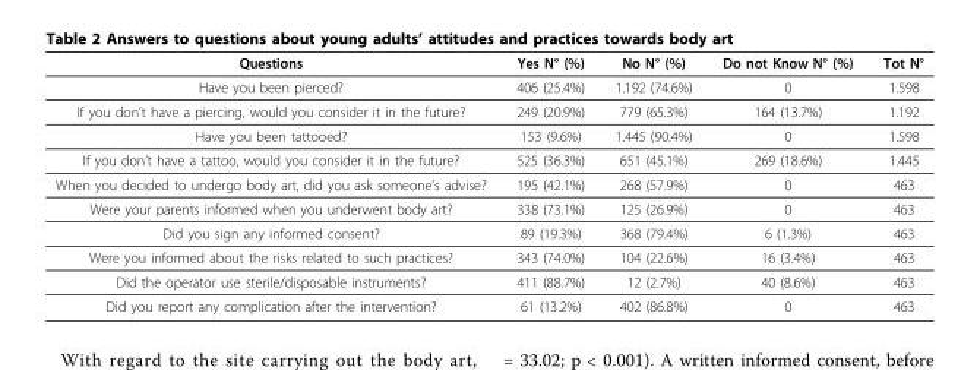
<table><thead><tr><td>Questions</td><td>Yes N° (%)</td><td>No N° (%)</td><td>Do not Know N° (%)</td><td>Tot N°</td></tr></thead><tbody><tr><td>Have you been pierced?</td><td>406 (25.4%)</td><td>1.192 (74.6%)</td><td>0</td><td>1.598</td></tr><tr><td>If you don’t have a piercing, would you consider it in the future?</td><td>249 (20.9%)</td><td>779 (65.3%)</td><td>164 (13.7%)</td><td>1.192</td></tr><tr><td>Have you been tattooed?</td><td>153 (9.6%)</td><td>1.445 (90.4%)</td><td>0</td><td>1.598</td></tr><tr><td>If you don’t have a tattoo, would you consider it in the future?</td><td>525 (36.3%)</td><td>651 (45.1%)</td><td>269 (18.6%)</td><td>1.445</td></tr><tr><td>When you decided to undergo body art, did you ask someone’s advise?</td><td>195 (42.1%)</td><td>268 (57.9%)</td><td>0</td><td>463</td></tr><tr><td>Were your parents informed when you underwent body art?</td><td>338 (73.1%)</td><td>125 (26.9%)</td><td>0</td><td>463</td></tr><tr><td>Did you sign any informed consent?</td><td>89 (19.3%)</td><td>368 (79.4%)</td><td>6 (1.3%)</td><td>463</td></tr><tr><td>Were you informed about the risks related to such practices?</td><td>343 (74.0%)</td><td>104 (22.6%)</td><td>16 (3.4%)</td><td>463</td></tr><tr><td>Did the operator use sterile/disposable instruments?</td><td>411 (88.7%)</td><td>12 (2.7%)</td><td>40 (8.6%)</td><td>463</td></tr><tr><td>Did you report any complication after the intervention?</td><td>61 (13.2%)</td><td>402 (86.8%)</td><td>0</td><td>463</td></tr></tbody></table>